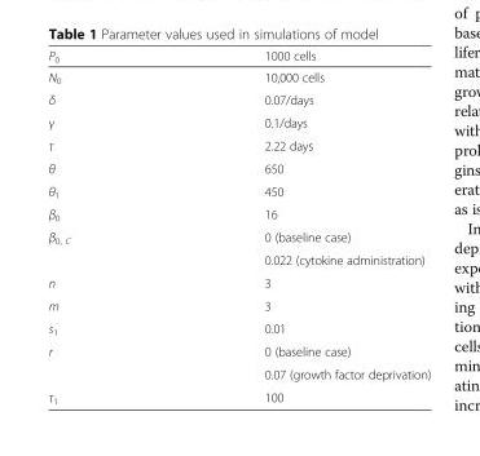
<table><thead><tr><td>P<sub>0</sub></td><td>1000 cells</td></tr></thead><tbody><tr><td>N<sub>0</sub></td><td>10,000 cells</td></tr><tr><td>δ</td><td>0.07/days</td></tr><tr><td>γ</td><td>0.1/days</td></tr><tr><td>τ</td><td>2.22 days</td></tr><tr><td>θ</td><td>650</td></tr><tr><td>θ<sub>1</sub></td><td>450</td></tr><tr><td>β<sub>0</sub></td><td>16</td></tr><tr><td rowspan="2">β<sub>0, C</sub></td><td>0 (baseline case)</td></tr><tr><td>0.022 (cytokine administration)</td></tr><tr><td>n</td><td>3</td></tr><tr><td>m</td><td>3</td></tr><tr><td>s<sub>1</sub></td><td>0.01</td></tr><tr><td rowspan="2">r</td><td>0 (baseline case)</td></tr><tr><td>0.07 (growth factor deprivation)</td></tr><tr><td>τ<sub>1</sub></td><td>100</td></tr></tbody></table>